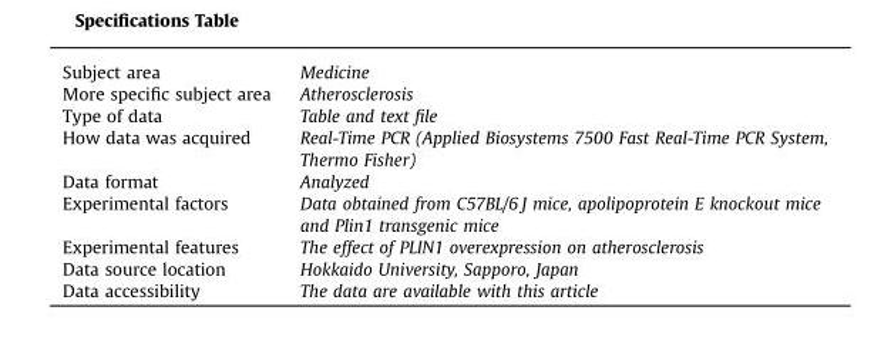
<table><tbody><tr><td>Subject area</td><td>Medicine</td></tr><tr><td>More specific subject area</td><td>Atherosclerosis</td></tr><tr><td>Type of data</td><td>Table and text file</td></tr><tr><td>How data was acquired</td><td>Real-Time PCR (Applied Biosystems 7500 Fast Real-Time PCR System, Thermo Fisher)</td></tr><tr><td>Data format</td><td>Analyzed</td></tr><tr><td>Experimental factors</td><td>Data obtained from C57BL/6 J mice, apolipoprotein E knockout mice and Plin1 transgenic mice</td></tr><tr><td>Experimental features</td><td>The effect of PLIN1 overexpression on atherosclerosis</td></tr><tr><td>Data source location</td><td>Hokkaido University, Sapporo, Japan</td></tr><tr><td>Data accessibility</td><td>The data are available with this article</td></tr></tbody></table>